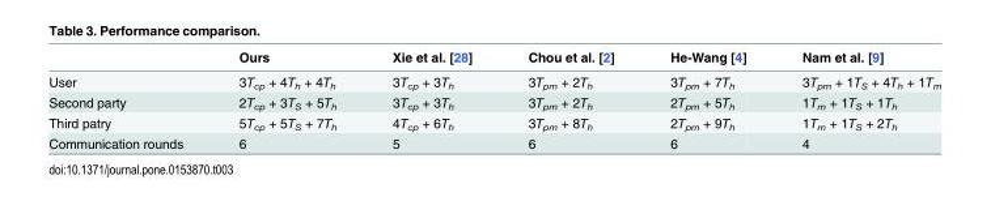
<table><thead><tr><td></td><td>Ours</td><td>Xie et al. [28]</td><td>Chou et al. [2]</td><td>He-Wang [4]</td><td>Nam et al. [9]</td></tr></thead><tbody><tr><td>User</td><td>3T<sub>cp</sub> + 4T<sub>h</sub> + 4T<sub>h</sub></td><td>3T<sub>cp</sub> + 3T<sub>h</sub></td><td>3T<sub>pm</sub> + 2T<sub>h</sub></td><td>3T<sub>pm</sub> + 7T<sub>h</sub></td><td>3T<sub>pm</sub> + 1T<sub>S</sub> + 4T<sub>h</sub> + 1T<sub>m</sub></td></tr><tr><td>Second party</td><td>2T<sub>cp</sub> + 3T<sub>S</sub> + 5T<sub>h</sub></td><td>3T<sub>cp</sub> + 3T<sub>h</sub></td><td>3T<sub>pm</sub> + 2T<sub>h</sub></td><td>2T<sub>pm</sub> + 5T<sub>h</sub></td><td>1T<sub>m</sub> + 1T<sub>S</sub> + 1T<sub>h</sub></td></tr><tr><td>Third patry</td><td>5T<sub>cp</sub> + 5T<sub>S</sub> + 7T<sub>h</sub></td><td>4T<sub>cp</sub> + 6T<sub>h</sub></td><td>3T<sub>pm</sub> + 8T<sub>h</sub></td><td>2T<sub>pm</sub> + 9T<sub>h</sub></td><td>1T<sub>m</sub> + 1T<sub>S</sub> + 2T<sub>h</sub></td></tr><tr><td>Communication rounds</td><td>6</td><td>5</td><td>6</td><td>6</td><td>4</td></tr></tbody></table>